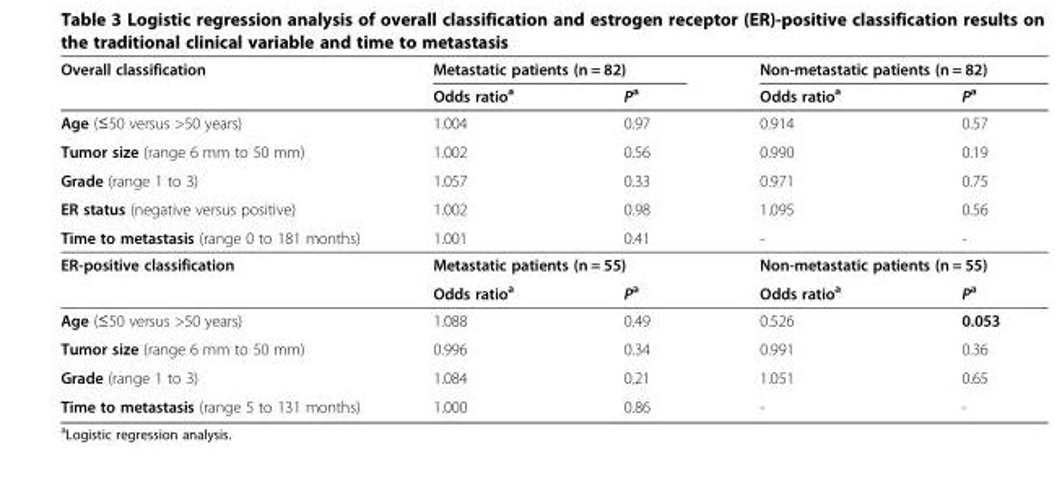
<table><thead><tr><td rowspan="2">Overall classification</td><td colspan="2">Metastatic patients (n = 82)</td><td colspan="2">Non-metastatic patients (n = 82)</td></tr><tr><td>Odds ratio<sup>a</sup></td><td>P<sup>a</sup></td><td>Odds ratio<sup>a</sup></td><td>P<sup>a</sup></td></tr></thead><tbody><tr><td>Age (≤50 versus &gt;50 years)</td><td>1.004</td><td>0.97</td><td>0.914</td><td>0.57</td></tr><tr><td>Tumor size (range 6 mm to 50 mm)</td><td>1.002</td><td>0.56</td><td>0.990</td><td>0.19</td></tr><tr><td>Grade (range 1 to 3)</td><td>1.057</td><td>0.33</td><td>0.971</td><td>0.75</td></tr><tr><td>ER status (negative versus positive)</td><td>1.002</td><td>0.98</td><td>1.095</td><td>0.56</td></tr><tr><td>Time to metastasis (range 0 to 181 months)</td><td>1.001</td><td>0.41</td><td>-</td><td>-</td></tr><tr><td rowspan="2">ER-positive classification</td><td colspan="2">Metastatic patients (n = 55)</td><td colspan="2">Non-metastatic patients (n = 55)</td></tr><tr><td>Odds ratio<sup>a</sup></td><td>P<sup>a</sup></td><td>Odds ratio<sup>a</sup></td><td>P<sup>a</sup></td></tr><tr><td>Age (≤50 versus &gt;50 years)</td><td>1.088</td><td>0.49</td><td>0.526</td><td>0.053</td></tr><tr><td>Tumor size (range 6 mm to 50 mm)</td><td>0.996</td><td>0.34</td><td>0.991</td><td>0.36</td></tr><tr><td>Grade (range 1 to 3)</td><td>1.084</td><td>0.21</td><td>1.051</td><td>0.65</td></tr><tr><td>Time to metastasis (range 5 to 131 months)</td><td>1.000</td><td>0.86</td><td>-</td><td>-</td></tr></tbody></table>